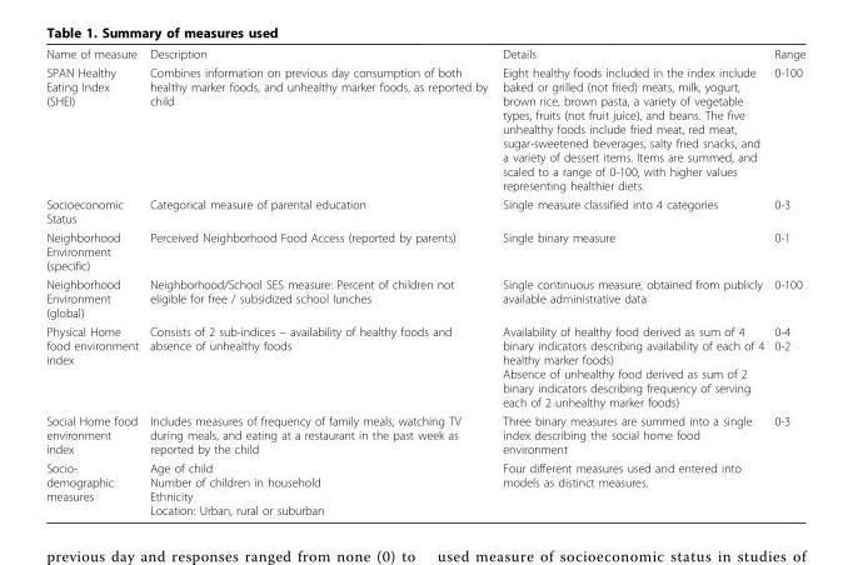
<table><tbody><tr><td>Name of measure</td><td>Description</td><td>Details</td><td>Range</td></tr><tr><td>SPAN Healthy Eating Index (SHEI)</td><td>Combines information on previous day consumption of both healthy marker foods, and unhealthy marker foods, as reported by child</td><td>Eight healthy foods included in the index include baked or grilled (not fried) meats, milk, yogurt, brown rice, brown pasta, a variety of vegetable types, fruits (not fruit juice), and beans. The five unhealthy foods include fried meat, red meat, sugar-sweetened beverages, salty fried snacks, and a variety of dessert items. Items are summed, and scaled to a range of 0-100, with higher values representing healthier diets.</td><td>0-100</td></tr><tr><td>Socioeconomic Status</td><td>Categorical measure of parental education</td><td>Single measure classified into 4 categories</td><td>0-3</td></tr><tr><td>Neighborhood Environment (specific)</td><td>Perceived Neighborhood Food Access (reported by parents)</td><td>Single binary measure</td><td>0-1</td></tr><tr><td>Neighborhood Environment (global)</td><td>Neighborhood/School SES measure: Percent of children not eligible for free / subsidized school lunches</td><td>Single continuous measure, obtained from publicly available administrative data</td><td>0-100</td></tr><tr><td>Physical Home food environment index</td><td>Consists of 2 sub-indices – availability of healthy foods and absence of unhealthy foods</td><td>Availability of healthy food derived as sum of 4 binary indicators describing availability of each of 4 healthy marker foods) Absence of unhealthy food derived as sum of 2 binary indicators describing frequency of serving each of 2 unhealthy marker foods)</td><td>0-4 0-2</td></tr><tr><td>Social Home food environment index</td><td>Includes measures of frequency of family meals, watching TV during meals, and eating at a restaurant in the past week as reported by the child</td><td>Three binary measures are summed into a single index describing the social home food environment</td><td>0-3</td></tr><tr><td>Socio- demographic measures</td><td>Age of child Number of children in household Ethnicity Location: Urban, rural or suburban</td><td>Four different measures used and entered into models as distinct measures.</td><td></td></tr></tbody></table>